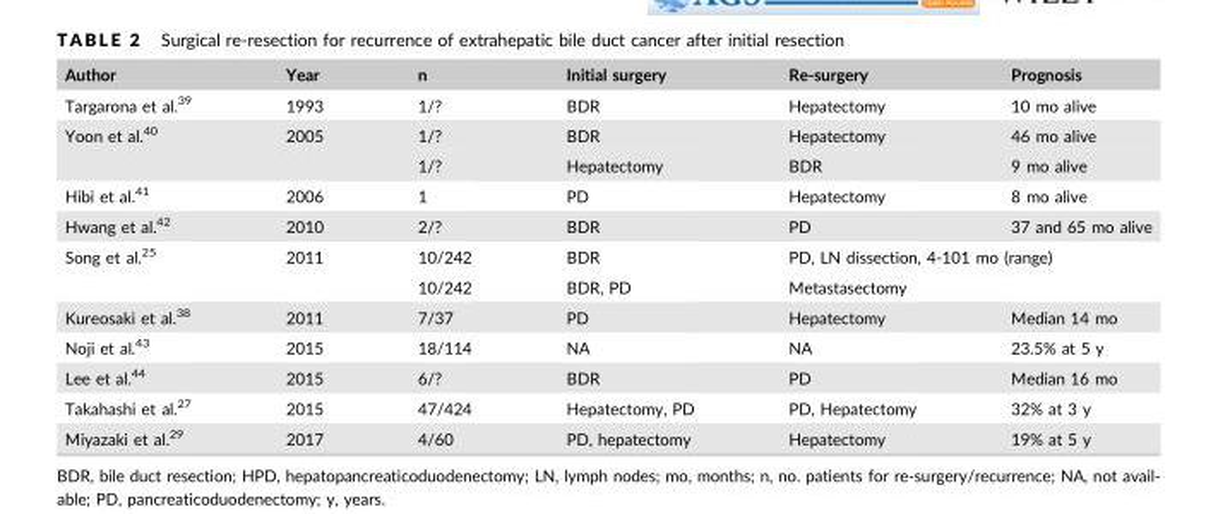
<table><thead><tr><td>Author</td><td>Year</td><td>n</td><td>Initial surgery</td><td>Re-surgery</td><td>Prognosis</td></tr></thead><tbody><tr><td>Targarona et al.<sup>39</sup></td><td>1993</td><td>1/?</td><td>BDR</td><td>Hepatectomy</td><td>10 mo alive</td></tr><tr><td rowspan="2">Yoon et al.<sup>40</sup></td><td rowspan="2">2005</td><td>1/?</td><td>BDR</td><td>Hepatectomy</td><td>46 mo alive</td></tr><tr><td>1/?</td><td>Hepatectomy</td><td>BDR</td><td>9 mo alive</td></tr><tr><td>Hibi et al.<sup>41</sup></td><td>2006</td><td>1</td><td>PD</td><td>Hepatectomy</td><td>8 mo alive</td></tr><tr><td>Hwang et al.<sup>42</sup></td><td>2010</td><td>2/?</td><td>BDR</td><td>PD</td><td>37 and 65 mo alive</td></tr><tr><td rowspan="2">Song et al.<sup>25</sup></td><td rowspan="2">2011</td><td>10/242</td><td>BDR</td><td colspan="2">PD, LN dissection, 4-101 mo (range)</td></tr><tr><td>10/242</td><td>BDR, PD</td><td colspan="2">Metastasectomy</td></tr><tr><td>Kureosaki et al.<sup>38</sup></td><td>2011</td><td>7/37</td><td>PD</td><td>Hepatectomy</td><td>Median 14 mo</td></tr><tr><td>Noji et al.<sup>43</sup></td><td>2015</td><td>18/114</td><td>NA</td><td>NA</td><td>23.5% at 5 y</td></tr><tr><td>Lee et al.<sup>44</sup></td><td>2015</td><td>6/?</td><td>BDR</td><td>PD</td><td>Median 16 mo</td></tr><tr><td>Takahashi et al.<sup>27</sup></td><td>2015</td><td>47/424</td><td>Hepatectomy, PD</td><td>PD, Hepatectomy</td><td>32% at 3 y</td></tr><tr><td>Miyazaki et al.<sup>29</sup></td><td>2017</td><td>4/60</td><td>PD, hepatectomy</td><td>Hepatectomy</td><td>19% at 5 y</td></tr></tbody></table>